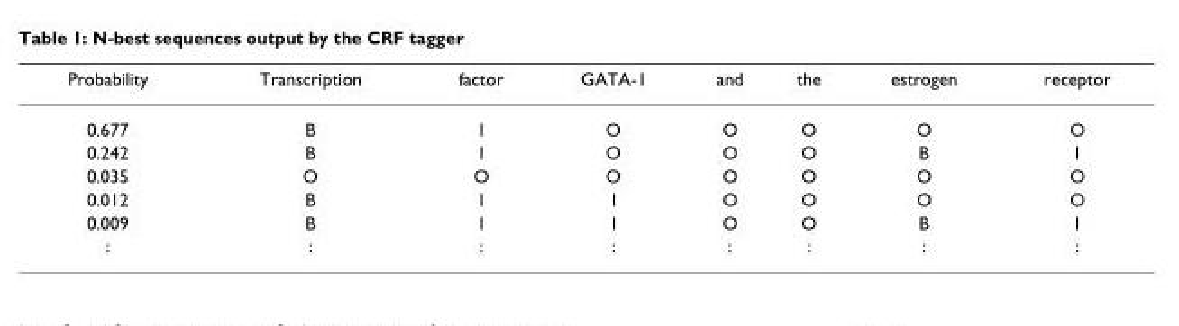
<table><thead><tr><td>Probability</td><td>Transcription</td><td>factor</td><td>GATA-1</td><td>and</td><td>the</td><td>estrogen</td><td>receptor</td></tr></thead><tbody><tr><td>0.677</td><td>B</td><td>I</td><td>O</td><td>O</td><td>O</td><td>O</td><td>O</td></tr><tr><td>0.242</td><td>B</td><td>I</td><td>O</td><td>O</td><td>O</td><td>B</td><td>I</td></tr><tr><td>0.035</td><td>O</td><td>O</td><td>O</td><td>O</td><td>O</td><td>O</td><td>O</td></tr><tr><td>0.012</td><td>B</td><td>I</td><td>I</td><td>O</td><td>O</td><td>O</td><td>O</td></tr><tr><td>0.009</td><td>B</td><td>I</td><td>I</td><td>O</td><td>O</td><td>B</td><td>I</td></tr><tr><td>:</td><td>:</td><td>:</td><td>:</td><td>:</td><td>:</td><td>:</td><td>:</td></tr></tbody></table>